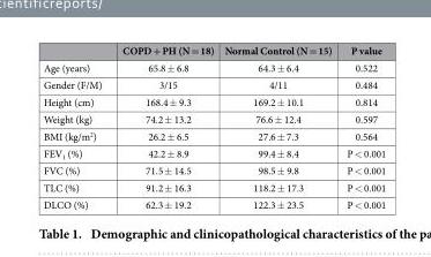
<table><thead><tr><td></td><td>COPD + PH (N = 18)</td><td>Normal Control (N = 15)</td><td>P value</td></tr></thead><tbody><tr><td>Age (years)</td><td>65.8 ± 6.8</td><td>64.3 ± 6.4</td><td>0.522</td></tr><tr><td>Gender (F/M)</td><td>3/15</td><td>4/11</td><td>0.484</td></tr><tr><td>Height (cm)</td><td>168.4 ± 9.3</td><td>169.2 ± 10.1</td><td>0.814</td></tr><tr><td>Weight (kg)</td><td>74.2 ± 13.2</td><td>76.6 ± 12.4</td><td>0.597</td></tr><tr><td>BMI (kg/m<sup>2</sup>)</td><td>26.2 ± 6.5</td><td>27.6 ± 7.3</td><td>0.564</td></tr><tr><td>FEV<sub>1</sub> (%)</td><td>42.2 ± 8.9</td><td>99.4 ± 8.4</td><td>P &lt; 0.001</td></tr><tr><td>FVC (%)</td><td>71.5 ± 14.5</td><td>98.5 ± 9.8</td><td>P &lt; 0.001</td></tr><tr><td>TLC (%)</td><td>91.2 ± 16.3</td><td>118.2 ± 17.3</td><td>P &lt; 0.001</td></tr><tr><td>DLCO (%)</td><td>62.3 ± 19.2</td><td>122.3 ± 23.5</td><td>P &lt; 0.001</td></tr></tbody></table>